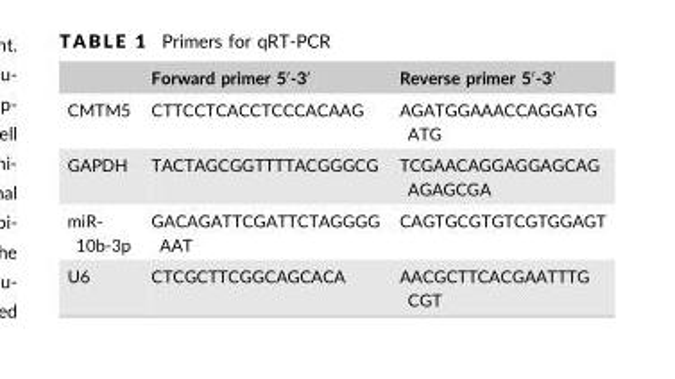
<table><thead><tr><td></td><td>Forward primer 5′-3′</td><td>Reverse primer 5′-3′</td></tr></thead><tbody><tr><td>CMTM5</td><td>CTTCCTCACCTCCCACAAG</td><td>AGATGGAAACCAGGATG ATG</td></tr><tr><td>GAPDH</td><td>TACTAGCGGTTTTACGGGCG</td><td>TCGAACAGGAGGAGCAG AGAGCGA</td></tr><tr><td>miR- 10b-3p</td><td>GACAGATTCGATTCTAGGGG AAT</td><td>CAGTGCGTGTCGTGGAGT</td></tr><tr><td>U6</td><td>CTCGCTTCGGCAGCACA</td><td>AACGCTTCACGAATTTG CGT</td></tr></tbody></table>